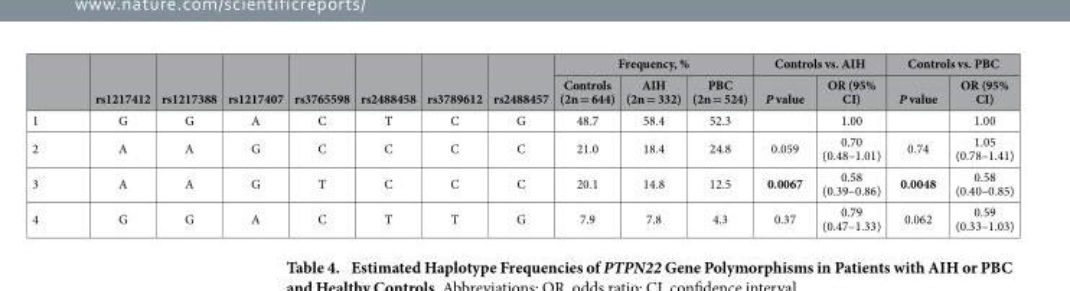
<table><thead><tr><td rowspan="2"></td><td rowspan="2">rs1217412</td><td rowspan="2">rs1217388</td><td rowspan="2">rs1217407</td><td rowspan="2">rs3765598</td><td rowspan="2">rs2488458</td><td rowspan="2">rs3789612</td><td rowspan="2">rs2488457</td><td colspan="3">Frequency, %</td><td colspan="2">Controls vs. AIH</td><td colspan="2">Controls vs. PBC</td></tr><tr><td>Controls (2n = 644)</td><td>AIH (2n = 332)</td><td>PBC (2n = 524)</td><td>P value</td><td>OR (95% CI)</td><td>P value</td><td>OR (95% CI)</td></tr></thead><tbody><tr><td>1</td><td>G</td><td>G</td><td>A</td><td>C</td><td>T</td><td>C</td><td>G</td><td>48.7</td><td>58.4</td><td>52.3</td><td></td><td>1.00</td><td></td><td>1.00</td></tr><tr><td>2</td><td>A</td><td>A</td><td>G</td><td>C</td><td>C</td><td>C</td><td>C</td><td>21.0</td><td>18.4</td><td>24.8</td><td>0.059</td><td>0.70 (0.48–1.01)</td><td>0.74</td><td>1.05 (0.78–1.41)</td></tr><tr><td>3</td><td>A</td><td>A</td><td>G</td><td>T</td><td>C</td><td>C</td><td>C</td><td>20.1</td><td>14.8</td><td>12.5</td><td>0.0067</td><td>0.58 (0.39–0.86)</td><td>0.0048</td><td>0.58 (0.40–0.85)</td></tr><tr><td>4</td><td>G</td><td>G</td><td>A</td><td>C</td><td>T</td><td>T</td><td>G</td><td>7.9</td><td>7.8</td><td>4.3</td><td>0.37</td><td>0.79 (0.47–1.33)</td><td>0.062</td><td>0.59 (0.33–1.03)</td></tr></tbody></table>